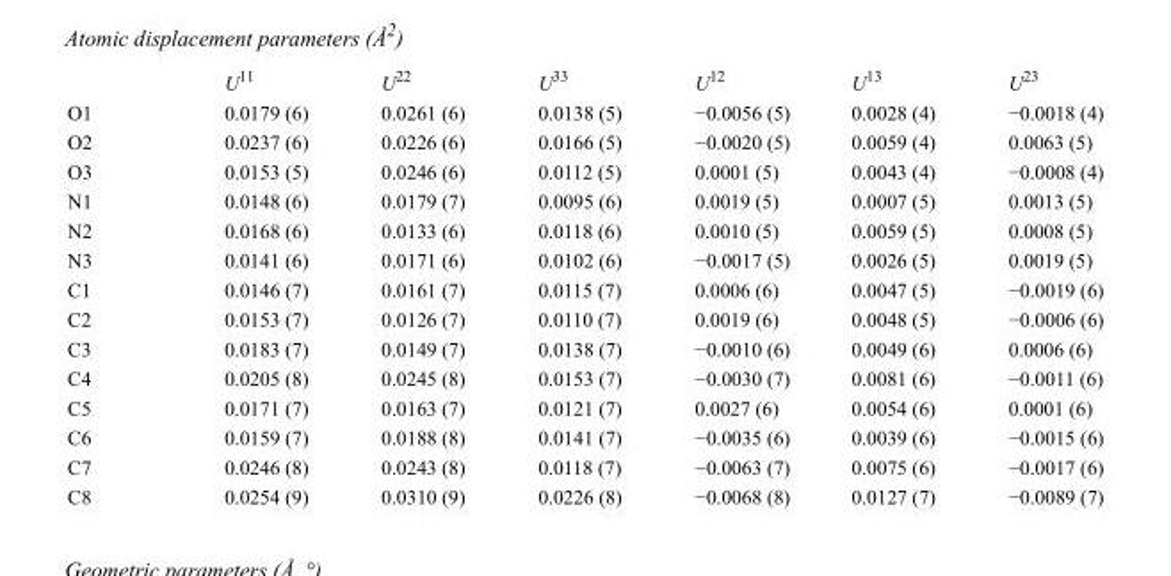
<table><thead><tr><td></td><td>U<sup>11</sup></td><td>U<sup>22</sup></td><td>U<sup>33</sup></td><td>U<sup>12</sup></td><td>U<sup>13</sup></td><td>U<sup>23</sup></td></tr></thead><tbody><tr><td>O1</td><td>0.0179 (6)</td><td>0.0261 (6)</td><td>0.0138 (5)</td><td>−0.0056 (5)</td><td>0.0028 (4)</td><td>−0.0018 (4)</td></tr><tr><td>O2</td><td>0.0237 (6)</td><td>0.0226 (6)</td><td>0.0166 (5)</td><td>−0.0020 (5)</td><td>0.0059 (4)</td><td>0.0063 (5)</td></tr><tr><td>O3</td><td>0.0153 (5)</td><td>0.0246 (6)</td><td>0.0112 (5)</td><td>0.0001 (5)</td><td>0.0043 (4)</td><td>−0.0008 (4)</td></tr><tr><td>N1</td><td>0.0148 (6)</td><td>0.0179 (7)</td><td>0.0095 (6)</td><td>0.0019 (5)</td><td>0.0007 (5)</td><td>0.0013 (5)</td></tr><tr><td>N2</td><td>0.0168 (6)</td><td>0.0133 (6)</td><td>0.0118 (6)</td><td>0.0010 (5)</td><td>0.0059 (5)</td><td>0.0008 (5)</td></tr><tr><td>N3</td><td>0.0141 (6)</td><td>0.0171 (6)</td><td>0.0102 (6)</td><td>−0.0017 (5)</td><td>0.0026 (5)</td><td>0.0019 (5)</td></tr><tr><td>C1</td><td>0.0146 (7)</td><td>0.0161 (7)</td><td>0.0115 (7)</td><td>0.0006 (6)</td><td>0.0047 (5)</td><td>−0.0019 (6)</td></tr><tr><td>C2</td><td>0.0153 (7)</td><td>0.0126 (7)</td><td>0.0110 (7)</td><td>0.0019 (6)</td><td>0.0048 (5)</td><td>−0.0006 (6)</td></tr><tr><td>C3</td><td>0.0183 (7)</td><td>0.0149 (7)</td><td>0.0138 (7)</td><td>−0.0010 (6)</td><td>0.0049 (6)</td><td>0.0006 (6)</td></tr><tr><td>C4</td><td>0.0205 (8)</td><td>0.0245 (8)</td><td>0.0153 (7)</td><td>−0.0030 (7)</td><td>0.0081 (6)</td><td>−0.0011 (6)</td></tr><tr><td>C5</td><td>0.0171 (7)</td><td>0.0163 (7)</td><td>0.0121 (7)</td><td>0.0027 (6)</td><td>0.0054 (6)</td><td>0.0001 (6)</td></tr><tr><td>C6</td><td>0.0159 (7)</td><td>0.0188 (8)</td><td>0.0141 (7)</td><td>−0.0035 (6)</td><td>0.0039 (6)</td><td>−0.0015 (6)</td></tr><tr><td>C7</td><td>0.0246 (8)</td><td>0.0243 (8)</td><td>0.0118 (7)</td><td>−0.0063 (7)</td><td>0.0075 (6)</td><td>−0.0017 (6)</td></tr><tr><td>C8</td><td>0.0254 (9)</td><td>0.0310 (9)</td><td>0.0226 (8)</td><td>−0.0068 (8)</td><td>0.0127 (7)</td><td>−0.0089 (7)</td></tr></tbody></table>